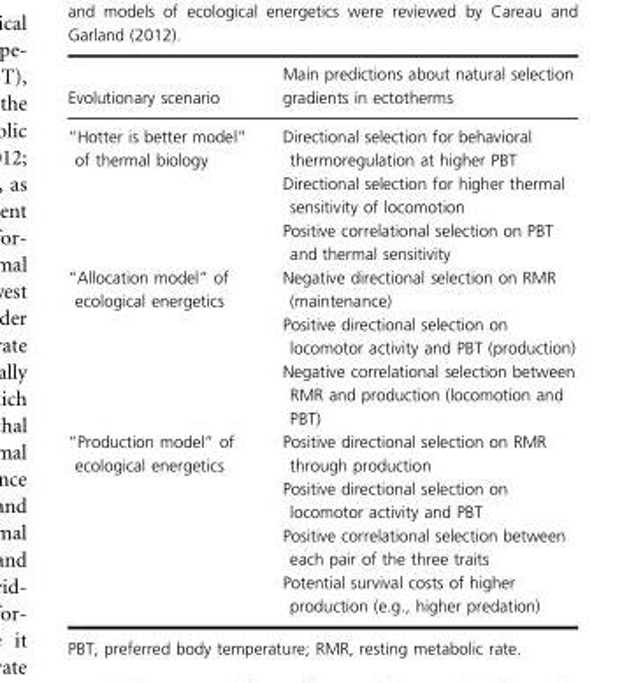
<table><thead><tr><td>Evolutionary scenario</td><td>Main predictions about natural selection gradients in ectotherms</td></tr></thead><tbody><tr><td rowspan="3">“Hotter is better model” of thermal biology</td><td>Directional selection for behavioral thermoregulation at higher PBT</td></tr><tr><td>Directional selection for higher thermal sensitivity of locomotion</td></tr><tr><td>Positive correlational selection on PBT and thermal sensitivity</td></tr><tr><td rowspan="3">“Allocation model” of ecological energetics</td><td>Negative directional selection on RMR (maintenance)</td></tr><tr><td>Positive directional selection on locomotor activity and PBT (production)</td></tr><tr><td>Negative correlational selection between RMR and production (locomotion and PBT)</td></tr><tr><td rowspan="4">“Production model” of ecological energetics</td><td>Positive directional selection on RMR through production</td></tr><tr><td>Positive directional selection on locomotor activity and PBT</td></tr><tr><td>Positive correlational selection between each pair of the three traits</td></tr><tr><td>Potential survival costs of higher production (e.g., higher predation)</td></tr></tbody></table>